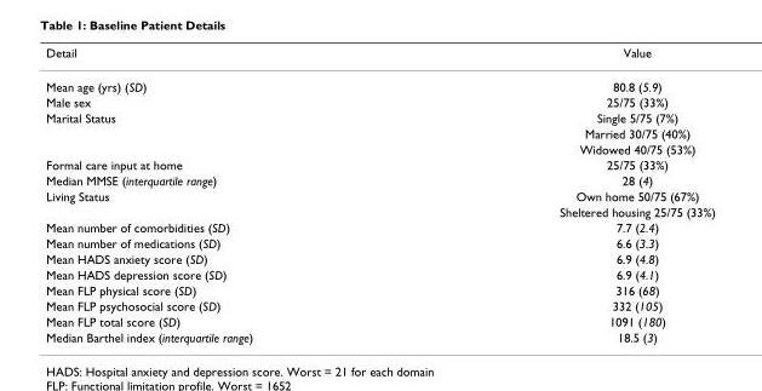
<table><thead><tr><td>Detail</td><td>Value</td></tr></thead><tbody><tr><td>Mean age (yrs) (SD)</td><td>80.8 (5.9)</td></tr><tr><td>Male sex</td><td>25/75 (33%)</td></tr><tr><td rowspan="3">Marital Status</td><td>Single 5/75 (7%)</td></tr><tr><td>Married 30/75 (40%)</td></tr><tr><td>Widowed 40/75 (53%)</td></tr><tr><td>Formal care input at home</td><td>25/75 (33%)</td></tr><tr><td>Median MMSE (interquartile range)</td><td>28 (4)</td></tr><tr><td rowspan="2">Living Status</td><td>Own home 50/75 (67%)</td></tr><tr><td>Sheltered housing 25/75 (33%)</td></tr><tr><td>Mean number of comorbidities (SD)</td><td>7.7 (2.4)</td></tr><tr><td>Mean number of medications (SD)</td><td>6.6 (3.3)</td></tr><tr><td>Mean HADS anxiety score (SD)</td><td>6.9 (4.8)</td></tr><tr><td>Mean HADS depression score (SD)</td><td>6.9 (4.1)</td></tr><tr><td>Mean FLP physical score (SD)</td><td>316 (68)</td></tr><tr><td>Mean FLP psychosocial score (SD)</td><td>332 (105)</td></tr><tr><td>Mean FLP total score (SD)</td><td>1091 (180)</td></tr><tr><td>Median Barthel index (interquartile range)</td><td>18.5 (3)</td></tr></tbody></table>